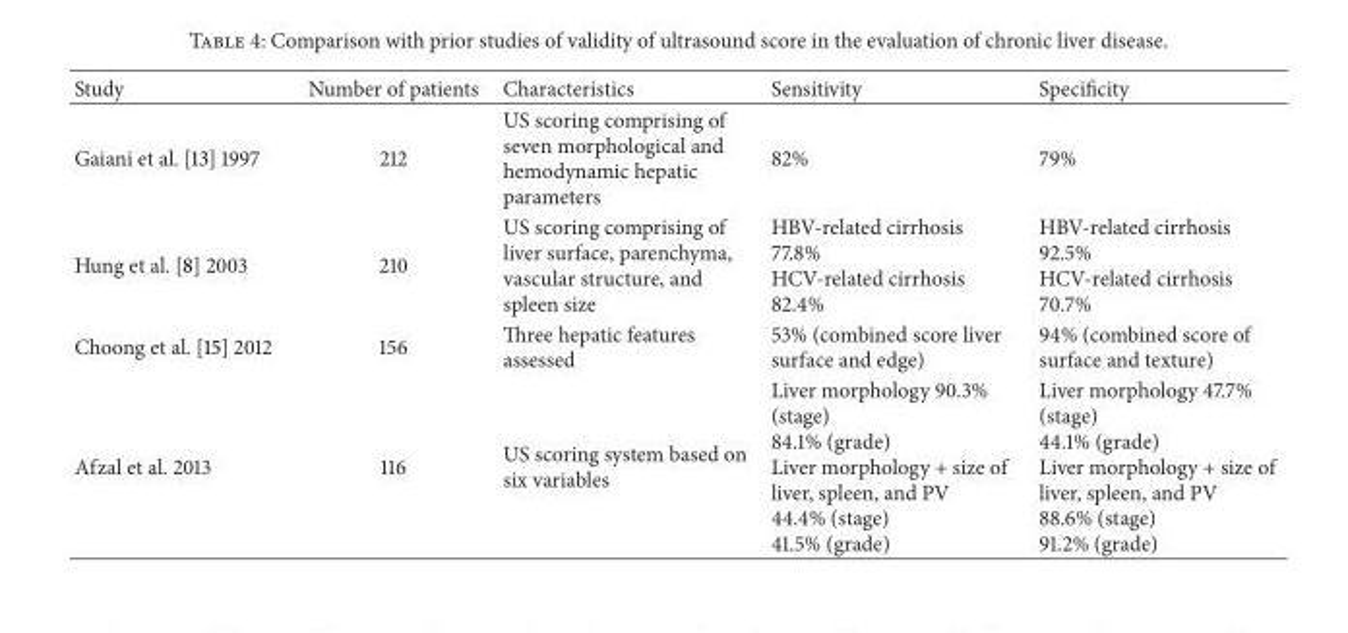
<table><thead><tr><td>Study</td><td>Number of patients</td><td>Characteristics</td><td>Sensitivity</td><td>Specificity</td></tr></thead><tbody><tr><td>Gaiani et al. [13] 1997</td><td>212</td><td>US scoring comprising of seven morphological and hemodynamic hepatic parameters</td><td>82%</td><td>79%</td></tr><tr><td>Hung et al. [8] 2003</td><td>210</td><td>US scoring comprising of liver surface, parenchyma, vascular structure, and spleen size</td><td>HBV-related cirrhosis 77.8% HCV-related cirrhosis 82.4%</td><td>HBV-related cirrhosis 92.5% HCV-related cirrhosis 70.7%</td></tr><tr><td>Choong et al. [15] 2012</td><td>156</td><td>Three hepatic features assessed</td><td>53% (combined score liver surface and edge)</td><td>94% (combined score of surface and texture)</td></tr><tr><td>Afzal et al. 2013</td><td>116</td><td>US scoring system based on six variables</td><td>Liver morphology 90.3% (stage) 84.1% (grade) Liver morphology + size of liver, spleen, and PV 44.4% (stage) 41.5% (grade)</td><td>Liver morphology 47.7% (stage) 44.1% (grade) Liver morphology + size of liver, spleen, and PV 88.6% (stage) 91.2% (grade)</td></tr></tbody></table>